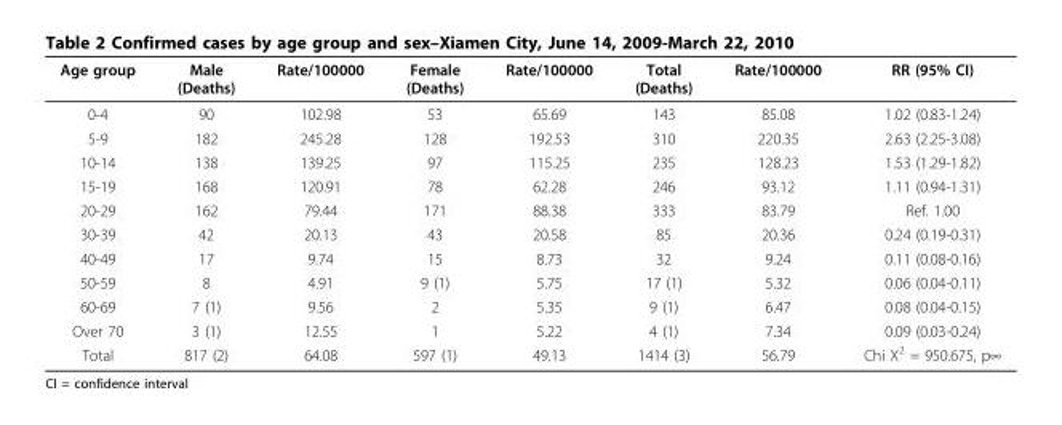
<table><thead><tr><td>Age group</td><td>Male (Deaths)</td><td>Rate/100000</td><td>Female (Deaths)</td><td>Rate/100000</td><td>Total (Deaths)</td><td>Rate/100000</td><td>RR (95% CI)</td></tr></thead><tbody><tr><td>0-4</td><td>90</td><td>102.98</td><td>53</td><td>65.69</td><td>143</td><td>85.08</td><td>1.02 (0.83-1.24)</td></tr><tr><td>5-9</td><td>182</td><td>245.28</td><td>128</td><td>192.53</td><td>310</td><td>220.35</td><td>2.63 (2.25-3.08)</td></tr><tr><td>10-14</td><td>138</td><td>139.25</td><td>97</td><td>115.25</td><td>235</td><td>128.23</td><td>1.53 (1.29-1.82)</td></tr><tr><td>15-19</td><td>168</td><td>120.91</td><td>78</td><td>62.28</td><td>246</td><td>93.12</td><td>1.11 (0.94-1.31)</td></tr><tr><td>20-29</td><td>162</td><td>79.44</td><td>171</td><td>88.38</td><td>333</td><td>83.79</td><td>Ref. 1.00</td></tr><tr><td>30-39</td><td>42</td><td>20.13</td><td>43</td><td>20.58</td><td>85</td><td>20.36</td><td>0.24 (0.19-0.31)</td></tr><tr><td>40-49</td><td>17</td><td>9.74</td><td>15</td><td>8.73</td><td>32</td><td>9.24</td><td>0.11 (0.08-0.16)</td></tr><tr><td>50-59</td><td>8</td><td>4.91</td><td>9 (1)</td><td>5.75</td><td>17 (1)</td><td>5.32</td><td>0.06 (0.04-0.11)</td></tr><tr><td>60-69</td><td>7 (1)</td><td>9.56</td><td>2</td><td>5.35</td><td>9 (1)</td><td>6.47</td><td>0.08 (0.04-0.15)</td></tr><tr><td>Over 70</td><td>3 (1)</td><td>12.55</td><td>1</td><td>5.22</td><td>4 (1)</td><td>7.34</td><td>0.09 (0.03-0.24)</td></tr><tr><td>Total</td><td>817 (2)</td><td>64.08</td><td>597 (1)</td><td>49.13</td><td>1414 (3)</td><td>56.79</td><td>Chi X<sup>2</sup> = 950.675, p∞</td></tr></tbody></table>